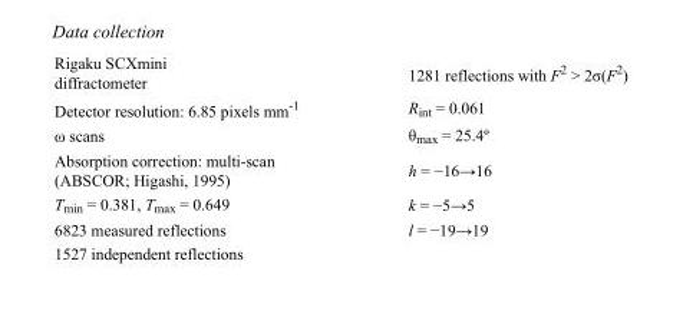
<table><tbody><tr><td>Rigaku SCXmini diffractometer</td><td>1281 reflections with F<sup>2</sup> &gt; 2σ(F<sup>2</sup>)</td></tr><tr><td>Detector resolution: 6.85 pixels mm<sup>-1</sup></td><td>R<sub>int</sub> = 0.061</td></tr><tr><td>ω scans</td><td>θ<sub>max</sub> = 25.4º</td></tr><tr><td>Absorption correction: multi-scan (ABSCOR; Higashi, 1995)</td><td>h = −16→16</td></tr><tr><td>T<sub>min</sub> = 0.381, T<sub>max</sub> = 0.649</td><td>k = −5→5</td></tr><tr><td>6823 measured reflections</td><td>l = −19→19</td></tr><tr><td>1527 independent reflections</td><td></td></tr></tbody></table>